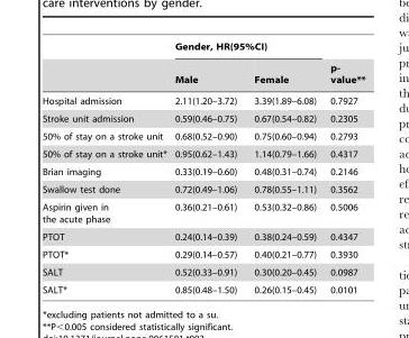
<table><thead><tr><td rowspan="2"></td><td colspan="2">Gender, HR(95%CI)</td><td rowspan="2">p- value**</td></tr><tr><td>Male</td><td>Female</td></tr></thead><tbody><tr><td>Hospital admission</td><td>2.11(1.20–3.72)</td><td>3.39(1.89–6.08)</td><td>0.7927</td></tr><tr><td>Stroke unit admission</td><td>0.59(0.46–0.75)</td><td>0.67(0.54–0.82)</td><td>0.2305</td></tr><tr><td>50% of stay on a stroke unit</td><td>0.68(0.52–0.90)</td><td>0.75(0.60–0.94)</td><td>0.2793</td></tr><tr><td>50% of stay on a stroke unit*</td><td>0.95(0.62–1.43)</td><td>1.14(0.79–1.66)</td><td>0.4317</td></tr><tr><td>Brian imaging</td><td>0.33(0.19–0.60)</td><td>0.48(0.31–0.74)</td><td>0.2146</td></tr><tr><td>Swallow test done</td><td>0.72(0.49–1.06)</td><td>0.78(0.55–1.11)</td><td>0.3562</td></tr><tr><td>Aspirin given in the acute phase</td><td>0.36(0.21–0.61)</td><td>0.53(0.32–0.86)</td><td>0.5006</td></tr><tr><td>PTOT</td><td>0.24(0.14–0.39)</td><td>0.38(0.24–0.59)</td><td>0.4347</td></tr><tr><td>PTOT*</td><td>0.29(0.14–0.57)</td><td>0.40(0.21–0.77)</td><td>0.3930</td></tr><tr><td>SALT</td><td>0.52(0.33–0.91)</td><td>0.30(0.20–0.45)</td><td>0.0987</td></tr><tr><td>SALT*</td><td>0.85(0.48–1.50)</td><td>0.26(0.15–0.45)</td><td>0.0101</td></tr></tbody></table>